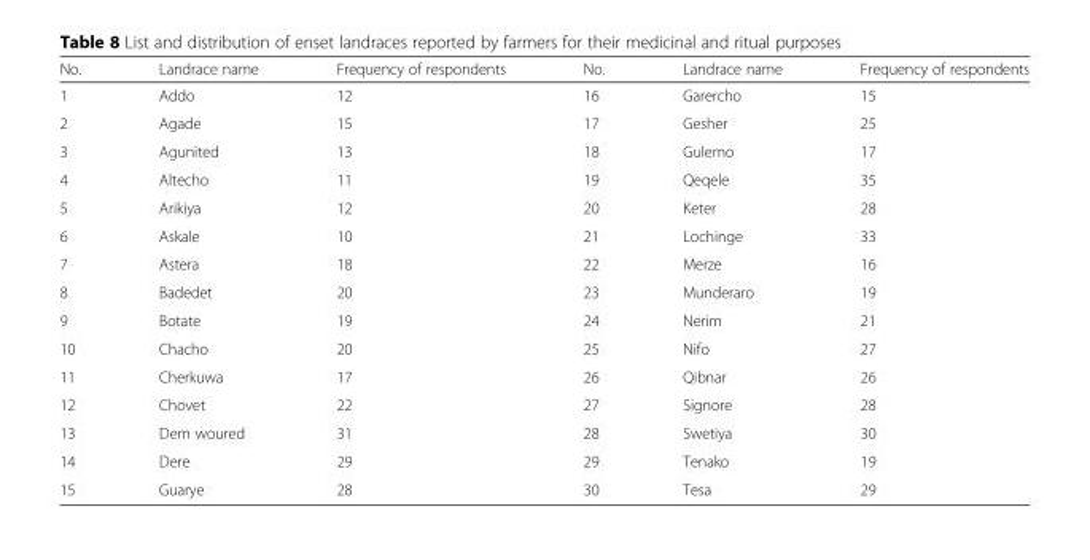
<table><thead><tr><td>No.</td><td>Landrace name</td><td>Frequency of respondents</td><td>No.</td><td>Landrace name</td><td>Frequency of respondents</td></tr></thead><tbody><tr><td>1</td><td>Addo</td><td>12</td><td>16</td><td>Garercho</td><td>15</td></tr><tr><td>2</td><td>Agade</td><td>15</td><td>17</td><td>Gesher</td><td>25</td></tr><tr><td>3</td><td>Agunited</td><td>13</td><td>18</td><td>Gulemo</td><td>17</td></tr><tr><td>4</td><td>Altecho</td><td>11</td><td>19</td><td>Qeqele</td><td>35</td></tr><tr><td>5</td><td>Arikiya</td><td>12</td><td>20</td><td>Keter</td><td>28</td></tr><tr><td>6</td><td>Askale</td><td>10</td><td>21</td><td>Lochinge</td><td>33</td></tr><tr><td>7</td><td>Astera</td><td>18</td><td>22</td><td>Merze</td><td>16</td></tr><tr><td>8</td><td>Badedet</td><td>20</td><td>23</td><td>Munderaro</td><td>19</td></tr><tr><td>9</td><td>Botate</td><td>19</td><td>24</td><td>Nerim</td><td>21</td></tr><tr><td>10</td><td>Chacho</td><td>20</td><td>25</td><td>Nifo</td><td>27</td></tr><tr><td>11</td><td>Cherkuwa</td><td>17</td><td>26</td><td>Qibnar</td><td>26</td></tr><tr><td>12</td><td>Chovet</td><td>22</td><td>27</td><td>Signore</td><td>28</td></tr><tr><td>13</td><td>Dem woured</td><td>31</td><td>28</td><td>Swetiya</td><td>30</td></tr><tr><td>14</td><td>Dere</td><td>29</td><td>29</td><td>Tenako</td><td>19</td></tr><tr><td>15</td><td>Guarye</td><td>28</td><td>30</td><td>Tesa</td><td>29</td></tr></tbody></table>